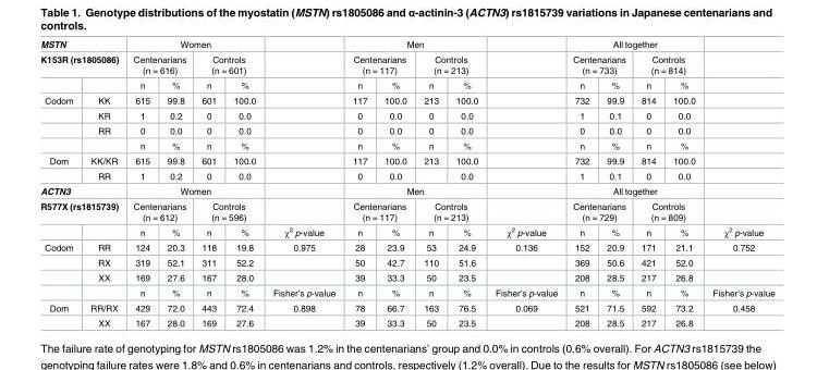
<table><tbody><tr><td colspan="2">MSTN</td><td colspan="4">Women</td><td></td><td colspan="4">Men</td><td></td><td colspan="4">All together</td><td></td></tr><tr><td colspan="2">K153R (rs1805086)</td><td colspan="2">Centenarians (n = 616)</td><td colspan="2">Controls (n = 601)</td><td></td><td colspan="2">Centenarians (n = 117)</td><td colspan="2">Controls (n = 213)</td><td></td><td colspan="2">Centenarians (n = 733)</td><td colspan="2">Controls (n = 814)</td><td></td></tr><tr><td></td><td></td><td>n</td><td>%</td><td>n</td><td>%</td><td></td><td>n</td><td>%</td><td>n</td><td>%</td><td></td><td>n</td><td>%</td><td>n</td><td>%</td><td></td></tr><tr><td rowspan="4">Codom</td><td>KK</td><td>615</td><td>99.8</td><td>601</td><td>100.0</td><td></td><td>117</td><td>100.0</td><td>213</td><td>100.0</td><td></td><td>732</td><td>99.9</td><td>814</td><td>100.0</td><td></td></tr><tr><td>KR</td><td>1</td><td>0.2</td><td>0</td><td>0.0</td><td></td><td>0</td><td>0.0</td><td>0</td><td>0.0</td><td></td><td>1</td><td>0.1</td><td>0</td><td>0.0</td><td></td></tr><tr><td>RR</td><td>0</td><td>0.0</td><td>0</td><td>0.0</td><td></td><td>0</td><td>0.0</td><td>0</td><td>0.0</td><td></td><td>0</td><td>0.0</td><td>0</td><td>0.0</td><td></td></tr><tr><td></td><td>n</td><td>%</td><td>n</td><td>%</td><td></td><td>n</td><td>%</td><td>n</td><td>%</td><td></td><td>n</td><td>%</td><td>n</td><td>%</td><td></td></tr><tr><td rowspan="2">Dom</td><td>KK/KR</td><td>615</td><td>99.8</td><td>601</td><td>100.0</td><td></td><td>117</td><td>100.0</td><td>213</td><td>100.0</td><td></td><td>732</td><td>99.9</td><td>814</td><td>100.0</td><td></td></tr><tr><td>RR</td><td>1</td><td>0.2</td><td>0</td><td>0.0</td><td></td><td>0</td><td>0.0</td><td></td><td>0.0</td><td></td><td>1</td><td>0.1</td><td>0</td><td>0.0</td><td></td></tr><tr><td colspan="2">ACTN3</td><td colspan="4">Women</td><td></td><td colspan="4">Men</td><td></td><td colspan="4">All together</td><td></td></tr><tr><td colspan="2">R577X (rs1815739)</td><td colspan="2">Centenarians (n = 612)</td><td colspan="2">Controls (n = 596)</td><td></td><td colspan="2">Centenarians (n = 117)</td><td colspan="2">Controls (n = 213)</td><td></td><td colspan="2">Centenarians (n = 729)</td><td colspan="2">Controls (n = 809)</td><td></td></tr><tr><td></td><td></td><td>n</td><td>%</td><td>n</td><td>%</td><td>χ<sup>2</sup> p-value</td><td>n</td><td>%</td><td>n</td><td>%</td><td>χ<sup>2</sup> p-value</td><td>n</td><td>%</td><td>n</td><td>%</td><td>χ<sup>2</sup> p-value</td></tr><tr><td rowspan="4">Codom</td><td>RR</td><td>124</td><td>20.3</td><td>118</td><td>19.8</td><td>0.975</td><td>28</td><td>23.9</td><td>53</td><td>24.9</td><td>0.136</td><td>152</td><td>20.9</td><td>171</td><td>21.1</td><td>0.752</td></tr><tr><td>RX</td><td>319</td><td>52.1</td><td>311</td><td>52.2</td><td></td><td>50</td><td>42.7</td><td>110</td><td>51.6</td><td></td><td>369</td><td>50.6</td><td>421</td><td>52.0</td><td></td></tr><tr><td>XX</td><td>169</td><td>27.6</td><td>167</td><td>28.0</td><td></td><td>39</td><td>33.3</td><td>50</td><td>23.5</td><td></td><td>208</td><td>28.5</td><td>217</td><td>26.8</td><td></td></tr><tr><td></td><td>n</td><td>%</td><td>n</td><td>%</td><td>Fisher’s p-value</td><td>n</td><td>%</td><td>n</td><td>%</td><td>Fisher’s p-value</td><td>n</td><td>%</td><td>n</td><td>%</td><td>Fisher’s p-value</td></tr><tr><td rowspan="2">Dom</td><td>RR/RX</td><td>429</td><td>72.0</td><td>443</td><td>72.4</td><td>0.898</td><td>78</td><td>66.7</td><td>163</td><td>76.5</td><td>0.069</td><td>521</td><td>71.5</td><td>592</td><td>73.2</td><td>0.458</td></tr><tr><td>XX</td><td>167</td><td>28.0</td><td>169</td><td>27.6</td><td></td><td>39</td><td>33.3</td><td>50</td><td>23.5</td><td></td><td>208</td><td>28.5</td><td>217</td><td>26.8</td><td></td></tr></tbody></table>